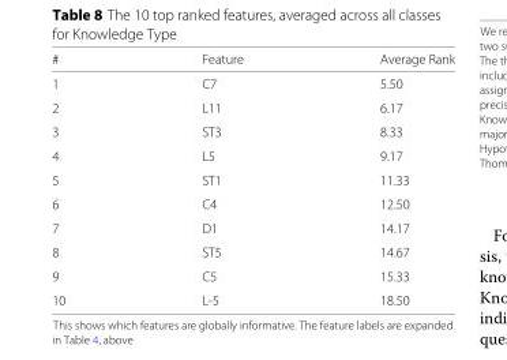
<table><thead><tr><td>#</td><td>Feature</td><td>Average Rank</td></tr></thead><tbody><tr><td>1</td><td>C7</td><td>5.50</td></tr><tr><td>2</td><td>L11</td><td>6.17</td></tr><tr><td>3</td><td>ST3</td><td>8.33</td></tr><tr><td>4</td><td>L5</td><td>9.17</td></tr><tr><td>5</td><td>ST1</td><td>11.33</td></tr><tr><td>6</td><td>C4</td><td>12.50</td></tr><tr><td>7</td><td>D1</td><td>14.17</td></tr><tr><td>8</td><td>ST5</td><td>14.67</td></tr><tr><td>9</td><td>C5</td><td>15.33</td></tr><tr><td>10</td><td>L-5</td><td>18.50</td></tr></tbody></table>